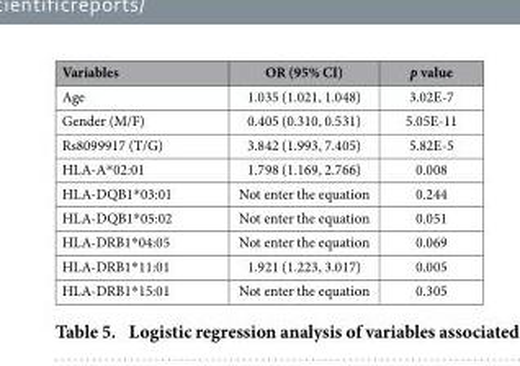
<table><thead><tr><td>Variables</td><td>OR (95% CI)</td><td>p value</td></tr></thead><tbody><tr><td>Age</td><td>1.035 (1.021, 1.048)</td><td>3.02E-7</td></tr><tr><td>Gender (M/F)</td><td>0.405 (0.310, 0.531)</td><td>5.05E-11</td></tr><tr><td>Rs8099917 (T/G)</td><td>3.842 (1.993, 7.405)</td><td>5.82E-5</td></tr><tr><td>HLA-A* 02:01</td><td>1.798 (1.169, 2.766)</td><td>0.008</td></tr><tr><td>HLA-DQB1* 03:01</td><td>Not enter the equation</td><td>0.244</td></tr><tr><td>HLA-DQB1* 05:02</td><td>Not enter the equation</td><td>0.051</td></tr><tr><td>HLA-DRB1* 04:05</td><td>Not enter the equation</td><td>0.069</td></tr><tr><td>HLA-DRB1* 11:01</td><td>1.921 (1.223, 3.017)</td><td>0.005</td></tr><tr><td>HLA-DRB1* 15:01</td><td>Not enter the equation</td><td>0.305</td></tr></tbody></table>